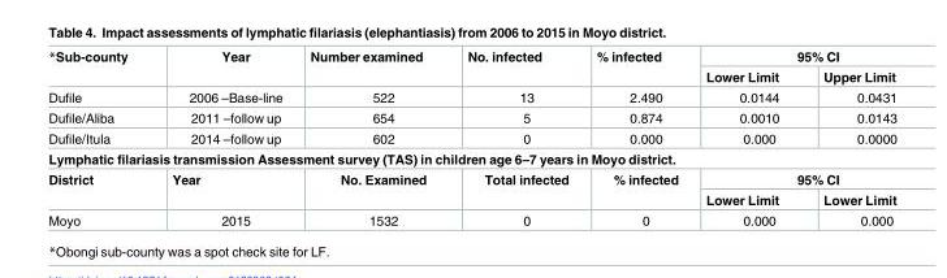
<table><tbody><tr><td rowspan="2">*Sub-county</td><td rowspan="2">Year</td><td rowspan="2">Number examined</td><td rowspan="2">No. infected</td><td rowspan="2">% infected</td><td colspan="2">95% CI</td></tr><tr><td>Lower Limit</td><td>Upper Limit</td></tr><tr><td>Dufile</td><td>2006 –Base-line</td><td>522</td><td>13</td><td>2.490</td><td>0.0144</td><td>0.0431</td></tr><tr><td>Dufile/Aliba</td><td>2011 –follow up</td><td>654</td><td>5</td><td>0.874</td><td>0.0010</td><td>0.0143</td></tr><tr><td>Dufile/Itula</td><td>2014 –follow up</td><td>602</td><td>0</td><td>0.000</td><td>0.000</td><td>0.0000</td></tr><tr><td colspan="7">Lymphatic filariasis transmission Assessment survey (TAS) in children age 6–7 years in Moyo district.</td></tr><tr><td rowspan="2">District</td><td rowspan="2">Year</td><td rowspan="2">No. Examined</td><td rowspan="2">Total infected</td><td rowspan="2">% infected</td><td colspan="2">95% CI</td></tr><tr><td>Lower Limit</td><td>Lower Limit</td></tr><tr><td>Moyo</td><td>2015</td><td>1532</td><td>0</td><td>0</td><td>0.000</td><td>0.000</td></tr></tbody></table>